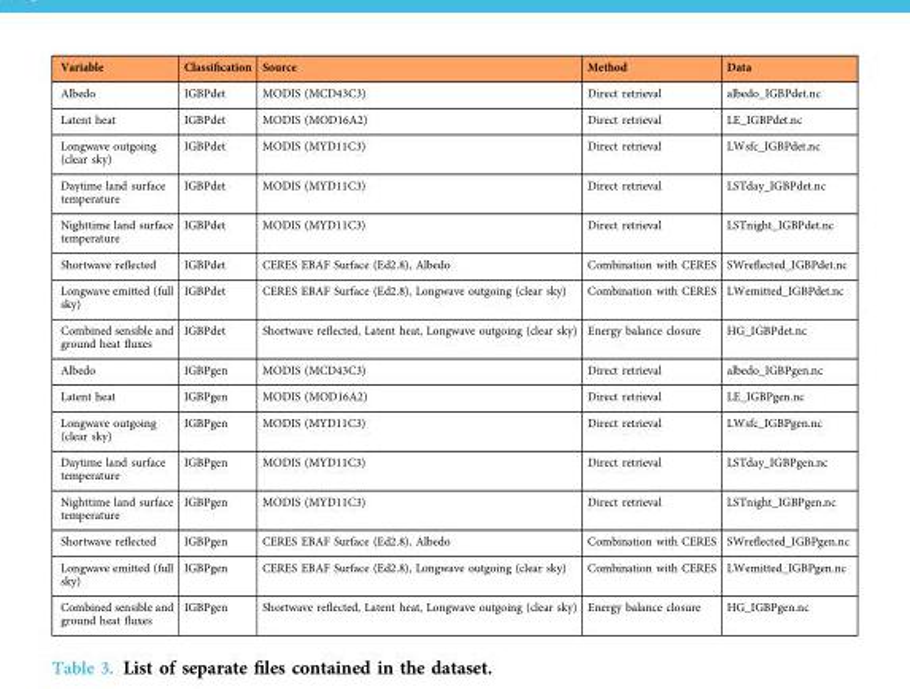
<table><thead><tr><td>Variable</td><td>Classification</td><td>Source</td><td>Method</td><td>Data</td></tr></thead><tbody><tr><td>Albedo</td><td>IGBPdet</td><td>MODIS (MCD43C3)</td><td>Direct retrieval</td><td>albedo_IGBPdet.nc</td></tr><tr><td>Latent heat</td><td>IGBPdet</td><td>MODIS (MOD16A2)</td><td>Direct retrieval</td><td>LE_IGBPdet.nc</td></tr><tr><td>Longwave outgoing (clear sky)</td><td>IGBPdet</td><td>MODIS (MYD11C3)</td><td>Direct retrieval</td><td>LWsfc_IGBPdet.nc</td></tr><tr><td>Daytime land surface temperature</td><td>IGBPdet</td><td>MODIS (MYD11C3)</td><td>Direct retrieval</td><td>LSTday_IGBPdet.nc</td></tr><tr><td>Nighttime land surface temperature</td><td>IGBPdet</td><td>MODIS (MYD11C3)</td><td>Direct retrieval</td><td>LSTnight_IGBPdet.nc</td></tr><tr><td>Shortwave reflected</td><td>IGBPdet</td><td>CERES EBAF Surface (Ed2.8), Albedo</td><td>Combination with CERES</td><td>SWreflected_IGBPdet.nc</td></tr><tr><td>Longwave emitted (full sky)</td><td>IGBPdet</td><td>CERES EBAF Surface (Ed2.8), Longwave outgoing (clear sky)</td><td>Combination with CERES</td><td>LWemitted_IGBPdet.nc</td></tr><tr><td>Combined sensible and ground heat fluxes</td><td>IGBPdet</td><td>Shortwave reflected, Latent heat, Longwave outgoing (clear sky)</td><td>Energy balance closure</td><td>HG_IGBPdet.nc</td></tr><tr><td>Albedo</td><td>IGBPgen</td><td>MODIS (MCD43C3)</td><td>Direct retrieval</td><td>albedo_IGBPgen.nc</td></tr><tr><td>Latent heat</td><td>IGBPgen</td><td>MODIS (MOD16A2)</td><td>Direct retrieval</td><td>LE_IGBPgen.nc</td></tr><tr><td>Longwave outgoing (clear sky)</td><td>IGBPgen</td><td>MODIS (MYD11C3)</td><td>Direct retrieval</td><td>LWsfc_IGBPgen.nc</td></tr><tr><td>Daytime land surface temperature</td><td>IGBPgen</td><td>MODIS (MYD11C3)</td><td>Direct retrieval</td><td>LSTday_IGBPgen.nc</td></tr><tr><td>Nighttime land surface temperature</td><td>IGBPgen</td><td>MODIS (MYD11C3)</td><td>Direct retrieval</td><td>LSTnight_IGBPgen.nc</td></tr><tr><td>Shortwave reflected</td><td>IGBPgen</td><td>CERES EBAF Surface (Ed2.8), Albedo</td><td>Combination with CERES</td><td>SWreflected_IGBPgen.nc</td></tr><tr><td>Longwave emitted (full sky)</td><td>IGBPgen</td><td>CERES EBAF Surface (Ed2.8), Longwave outgoing (clear sky)</td><td>Combination with CERES</td><td>LWemitted_IGBPgen.nc</td></tr><tr><td>Combined sensible and ground heat fluxes</td><td>IGBPgen</td><td>Shortwave reflected, Latent heat, Longwave outgoing (clear sky)</td><td>Energy balance closure</td><td>HG_IGBPgen.nc</td></tr></tbody></table>